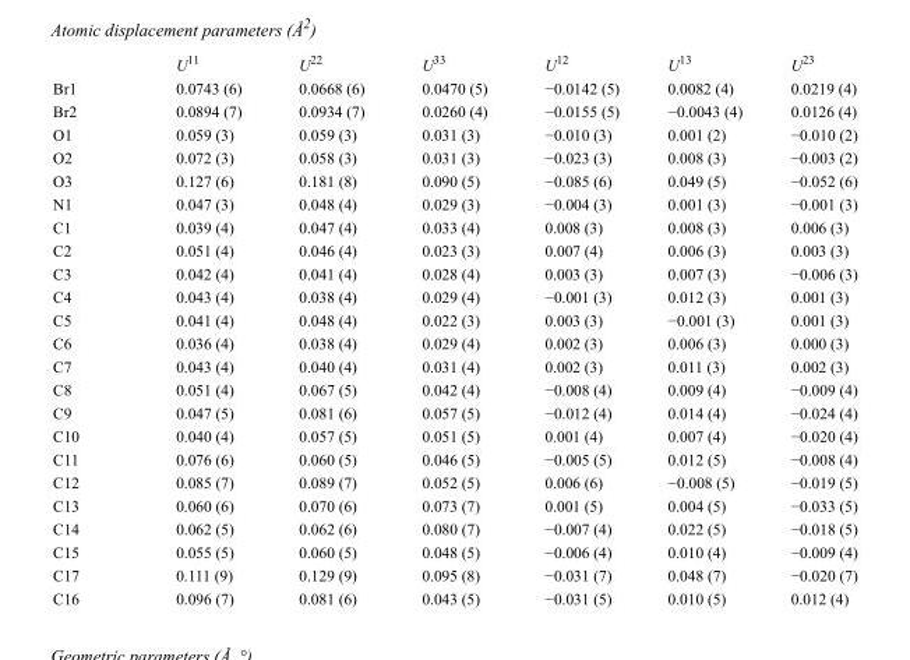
<table><thead><tr><td></td><td>U<sup>11</sup></td><td>U<sup>22</sup></td><td>U<sup>33</sup></td><td>U<sup>12</sup></td><td>U<sup>13</sup></td><td>U<sup>23</sup></td></tr></thead><tbody><tr><td>Br1</td><td>0.0743 (6)</td><td>0.0668 (6)</td><td>0.0470 (5)</td><td>−0.0142 (5)</td><td>0.0082 (4)</td><td>0.0219 (4)</td></tr><tr><td>Br2</td><td>0.0894 (7)</td><td>0.0934 (7)</td><td>0.0260 (4)</td><td>−0.0155 (5)</td><td>−0.0043 (4)</td><td>0.0126 (4)</td></tr><tr><td>O1</td><td>0.059 (3)</td><td>0.059 (3)</td><td>0.031 (3)</td><td>−0.010 (3)</td><td>0.001 (2)</td><td>−0.010 (2)</td></tr><tr><td>O2</td><td>0.072 (3)</td><td>0.058 (3)</td><td>0.031 (3)</td><td>−0.023 (3)</td><td>0.008 (3)</td><td>−0.003 (2)</td></tr><tr><td>O3</td><td>0.127 (6)</td><td>0.181 (8)</td><td>0.090 (5)</td><td>−0.085 (6)</td><td>0.049 (5)</td><td>−0.052 (6)</td></tr><tr><td>N1</td><td>0.047 (3)</td><td>0.048 (4)</td><td>0.029 (3)</td><td>−0.004 (3)</td><td>0.001 (3)</td><td>−0.001 (3)</td></tr><tr><td>C1</td><td>0.039 (4)</td><td>0.047 (4)</td><td>0.033 (4)</td><td>0.008 (3)</td><td>0.008 (3)</td><td>0.006 (3)</td></tr><tr><td>C2</td><td>0.051 (4)</td><td>0.046 (4)</td><td>0.023 (3)</td><td>0.007 (4)</td><td>0.006 (3)</td><td>0.003 (3)</td></tr><tr><td>C3</td><td>0.042 (4)</td><td>0.041 (4)</td><td>0.028 (4)</td><td>0.003 (3)</td><td>0.007 (3)</td><td>−0.006 (3)</td></tr><tr><td>C4</td><td>0.043 (4)</td><td>0.038 (4)</td><td>0.029 (4)</td><td>−0.001 (3)</td><td>0.012 (3)</td><td>0.001 (3)</td></tr><tr><td>C5</td><td>0.041 (4)</td><td>0.048 (4)</td><td>0.022 (3)</td><td>0.003 (3)</td><td>−0.001 (3)</td><td>0.001 (3)</td></tr><tr><td>C6</td><td>0.036 (4)</td><td>0.038 (4)</td><td>0.029 (4)</td><td>0.002 (3)</td><td>0.006 (3)</td><td>0.000 (3)</td></tr><tr><td>C7</td><td>0.043 (4)</td><td>0.040 (4)</td><td>0.031 (4)</td><td>0.002 (3)</td><td>0.011 (3)</td><td>0.002 (3)</td></tr><tr><td>C8</td><td>0.051 (4)</td><td>0.067 (5)</td><td>0.042 (4)</td><td>−0.008 (4)</td><td>0.009 (4)</td><td>−0.009 (4)</td></tr><tr><td>C9</td><td>0.047 (5)</td><td>0.081 (6)</td><td>0.057 (5)</td><td>−0.012 (4)</td><td>0.014 (4)</td><td>−0.024 (4)</td></tr><tr><td>C10</td><td>0.040 (4)</td><td>0.057 (5)</td><td>0.051 (5)</td><td>0.001 (4)</td><td>0.007 (4)</td><td>−0.020 (4)</td></tr><tr><td>C11</td><td>0.076 (6)</td><td>0.060 (5)</td><td>0.046 (5)</td><td>−0.005 (5)</td><td>0.012 (5)</td><td>−0.008 (4)</td></tr><tr><td>C12</td><td>0.085 (7)</td><td>0.089 (7)</td><td>0.052 (5)</td><td>0.006 (6)</td><td>−0.008 (5)</td><td>−0.019 (5)</td></tr><tr><td>C13</td><td>0.060 (6)</td><td>0.070 (6)</td><td>0.073 (7)</td><td>0.001 (5)</td><td>0.004 (5)</td><td>−0.033 (5)</td></tr><tr><td>C14</td><td>0.062 (5)</td><td>0.062 (6)</td><td>0.080 (7)</td><td>−0.007 (4)</td><td>0.022 (5)</td><td>−0.018 (5)</td></tr><tr><td>C15</td><td>0.055 (5)</td><td>0.060 (5)</td><td>0.048 (5)</td><td>−0.006 (4)</td><td>0.010 (4)</td><td>−0.009 (4)</td></tr><tr><td>C17</td><td>0.111 (9)</td><td>0.129 (9)</td><td>0.095 (8)</td><td>−0.031 (7)</td><td>0.048 (7)</td><td>−0.020 (7)</td></tr><tr><td>C16</td><td>0.096 (7)</td><td>0.081 (6)</td><td>0.043 (5)</td><td>−0.031 (5)</td><td>0.010 (5)</td><td>0.012 (4)</td></tr></tbody></table>